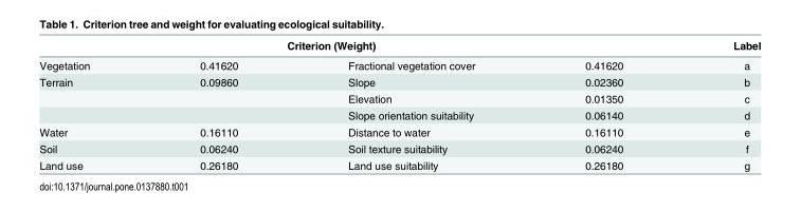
<table><thead><tr><td colspan="4">Criterion (Weight)</td><td rowspan="2">Label a</td></tr><tr><td>Vegetation</td><td>0.41620</td><td>Fractional vegetation cover</td><td>0.41620</td></tr></thead><tbody><tr><td rowspan="3">Terrain</td><td>0.09860</td><td>Slope</td><td>0.02360</td><td>b</td></tr><tr><td></td><td>Elevation</td><td>0.01350</td><td>c</td></tr><tr><td></td><td>Slope orientation suitability</td><td>0.06140</td><td>d</td></tr><tr><td>Water</td><td>0.16110</td><td>Distance to water</td><td>0.16110</td><td>e</td></tr><tr><td>Soil</td><td>0.06240</td><td>Soil texture suitability</td><td>0.06240</td><td>f</td></tr><tr><td>Land use</td><td>0.26180</td><td>Land use suitability</td><td>0.26180</td><td>g</td></tr></tbody></table>